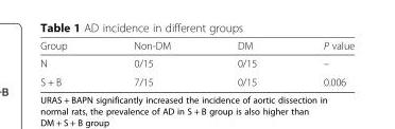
<table><thead><tr><td>Group</td><td>Non-DM</td><td>DM</td><td>P value</td></tr></thead><tbody><tr><td>N</td><td>0/15</td><td>0/15</td><td>–</td></tr><tr><td>S + B</td><td>7/15</td><td>0/15</td><td>0.006</td></tr></tbody></table>